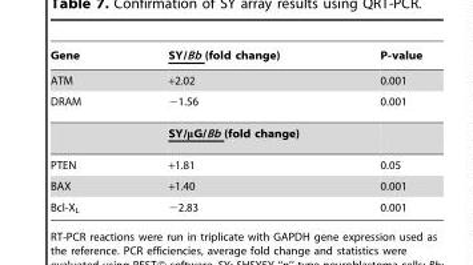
<table><thead><tr><td>Gene</td><td>SY/Bb (fold change)</td><td>P-value</td></tr></thead><tbody><tr><td>ATM</td><td>+2.02</td><td>0.001</td></tr><tr><td rowspan="2">DRAM</td><td>−1.56</td><td>0.001</td></tr><tr><td>SY/μG/Bb (fold change)</td><td></td></tr><tr><td>PTEN</td><td>+1.81</td><td>0.05</td></tr><tr><td>BAX</td><td>+1.40</td><td>0.001</td></tr><tr><td>Bcl-X<sub>L</sub></td><td>−2.83</td><td>0.001</td></tr></tbody></table>